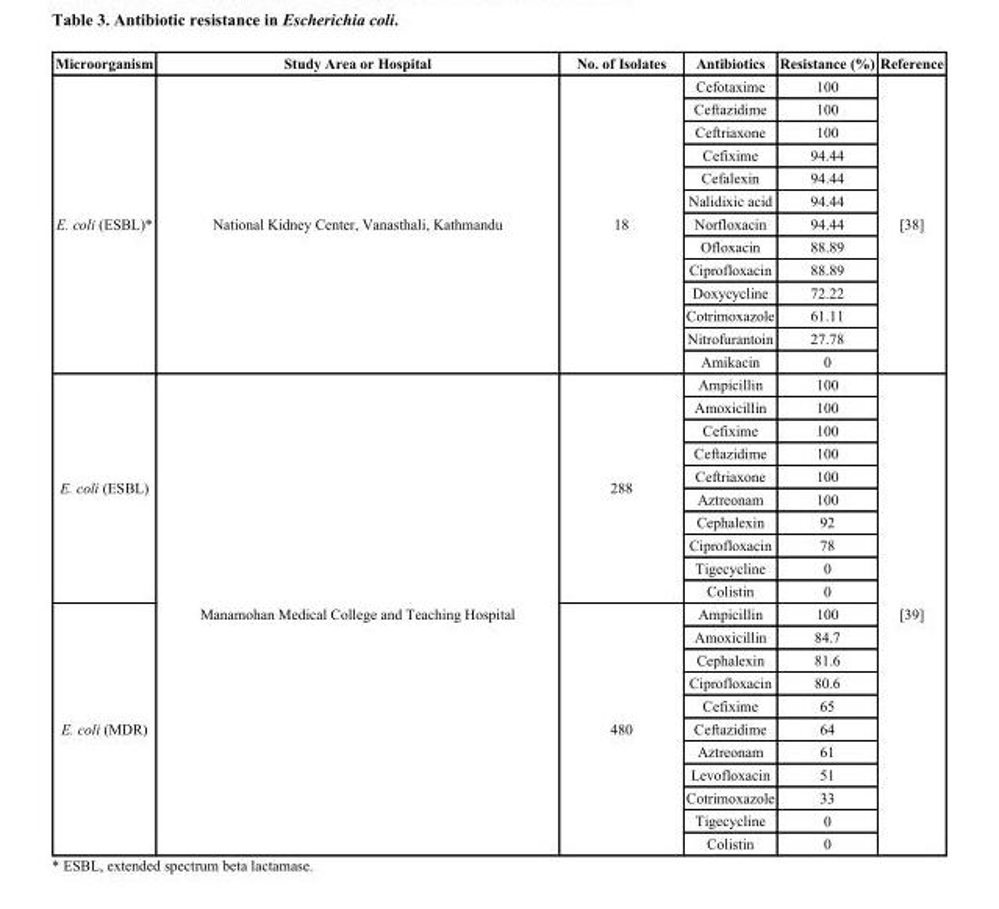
<table><thead><tr><td>Microorganism</td><td>Study Area or Hospital</td><td>No. of Isolates</td><td>Antibiotics</td><td>Resistance (%)</td><td>Reference</td></tr></thead><tbody><tr><td rowspan="13">E. coli (ESBL)*</td><td rowspan="13">National Kidney Center, Vanasthali, Kathmandu</td><td rowspan="13">18</td><td>Cefotaxime</td><td>100</td><td rowspan="13">[38]</td></tr><tr><td>Ceftazidime</td><td>100</td></tr><tr><td>Ceftriaxone</td><td>100</td></tr><tr><td>Cefixime</td><td>94.44</td></tr><tr><td>Cefalexin</td><td>94.44</td></tr><tr><td>Nalidixic acid</td><td>94.44</td></tr><tr><td>Norfloxacin</td><td>94.44</td></tr><tr><td>Ofloxacin</td><td>88.89</td></tr><tr><td>Ciprofloxacin</td><td>88.89</td></tr><tr><td>Doxycycline</td><td>72.22</td></tr><tr><td>Cotrimoxazole</td><td>61.11</td></tr><tr><td>Nitrofurantoin</td><td>27.78</td></tr><tr><td>Amikacin</td><td>0</td></tr><tr><td rowspan="10">E. coli (ESBL)</td><td rowspan="21">Manamohan Medical College and Teaching Hospital</td><td rowspan="10">288</td><td>Ampicillin</td><td>100</td><td rowspan="21">[39]</td></tr><tr><td>Amoxicillin</td><td>100</td></tr><tr><td>Cefixime</td><td>100</td></tr><tr><td>Ceftazidime</td><td>100</td></tr><tr><td>Ceftriaxone</td><td>100</td></tr><tr><td>Aztreonam</td><td>100</td></tr><tr><td>Cephalexin</td><td>92</td></tr><tr><td>Ciprofloxacin</td><td>78</td></tr><tr><td>Tigecycline</td><td>0</td></tr><tr><td>Colistin</td><td>0</td></tr><tr><td rowspan="11">E. coli (MDR)</td><td rowspan="11">480</td><td>Ampicillin</td><td>100</td></tr><tr><td>Amoxicillin</td><td>84.7</td></tr><tr><td>Cephalexin</td><td>81.6</td></tr><tr><td>Ciprofloxacin</td><td>80.6</td></tr><tr><td>Cefixime</td><td>65</td></tr><tr><td>Ceftazidime</td><td>64</td></tr><tr><td>Aztreonam</td><td>61</td></tr><tr><td>Levofloxacin</td><td>51</td></tr><tr><td>Cotrimoxazole</td><td>33</td></tr><tr><td>Tigecycline</td><td>0</td></tr><tr><td>Colistin</td><td>0</td></tr></tbody></table>